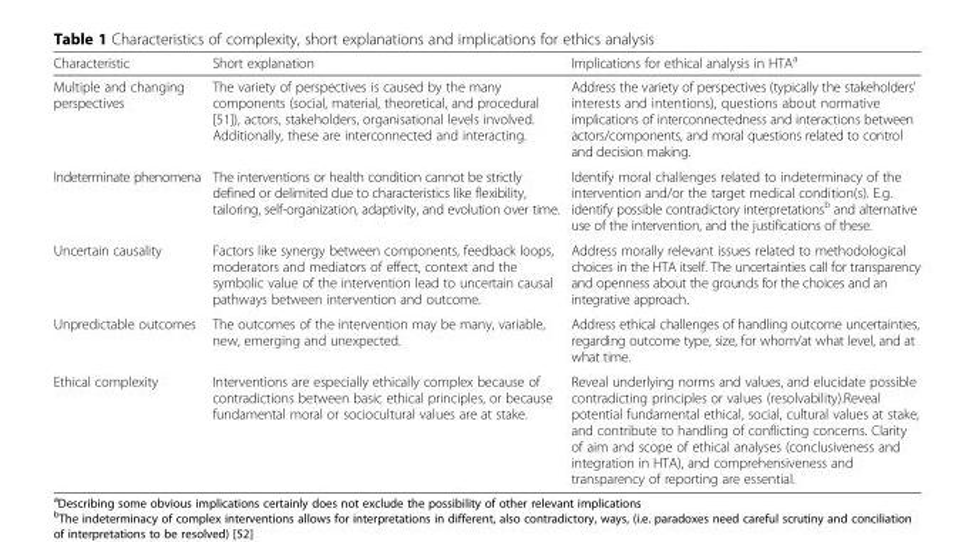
<table><thead><tr><td>Characteristic</td><td>Short explanation</td><td>Implications for ethical analysis in HTA<sup>a</sup></td></tr></thead><tbody><tr><td>Multiple and changing perspectives</td><td>The variety of perspectives is caused by the many components (social, material, theoretical, and procedural [51]), actors, stakeholders, organisational levels involved. Additionally, these are interconnected and interacting.</td><td>Address the variety of perspectives (typically the stakeholders’ interests and intentions), questions about normative implications of interconnectedness and interactions between actors/components, and moral questions related to control and decision making.</td></tr><tr><td>Indeterminate phenomena</td><td>The interventions or health condition cannot be strictly defined or delimited due to characteristics like flexibility, tailoring, self-organization, adaptivity, and evolution over time.</td><td>Identify moral challenges related to indeterminacy of the intervention and/or the target medical condition(s). E.g. identify possible contradictory interpretations<sup>b</sup> and alternative use of the intervention, and the justifications of these.</td></tr><tr><td>Uncertain causality</td><td>Factors like synergy between components, feedback loops, moderators and mediators of effect, context and the symbolic value of the intervention lead to uncertain causal pathways between intervention and outcome.</td><td>Address morally relevant issues related to methodological choices in the HTA itself. The uncertainties call for transparency and openness about the grounds for the choices and an integrative approach.</td></tr><tr><td>Unpredictable outcomes</td><td>The outcomes of the intervention may be many, variable, new, emerging and unexpected.</td><td>Address ethical challenges of handling outcome uncertainties, regarding outcome type, size, for whom/at what level, and at what time.</td></tr><tr><td>Ethical complexity</td><td>Interventions are especially ethically complex because of contradictions between basic ethical principles, or because fundamental moral or sociocultural values are at stake.</td><td>Reveal underlying norms and values, and elucidate possible contradicting principles or values (resolvability).Reveal potential fundamental ethical, social, cultural values at stake, and contribute to handling of conflicting concerns. Clarity of aim and scope of ethical analyses (conclusiveness and integration in HTA), and comprehensiveness and transparency of reporting are essential.</td></tr></tbody></table>